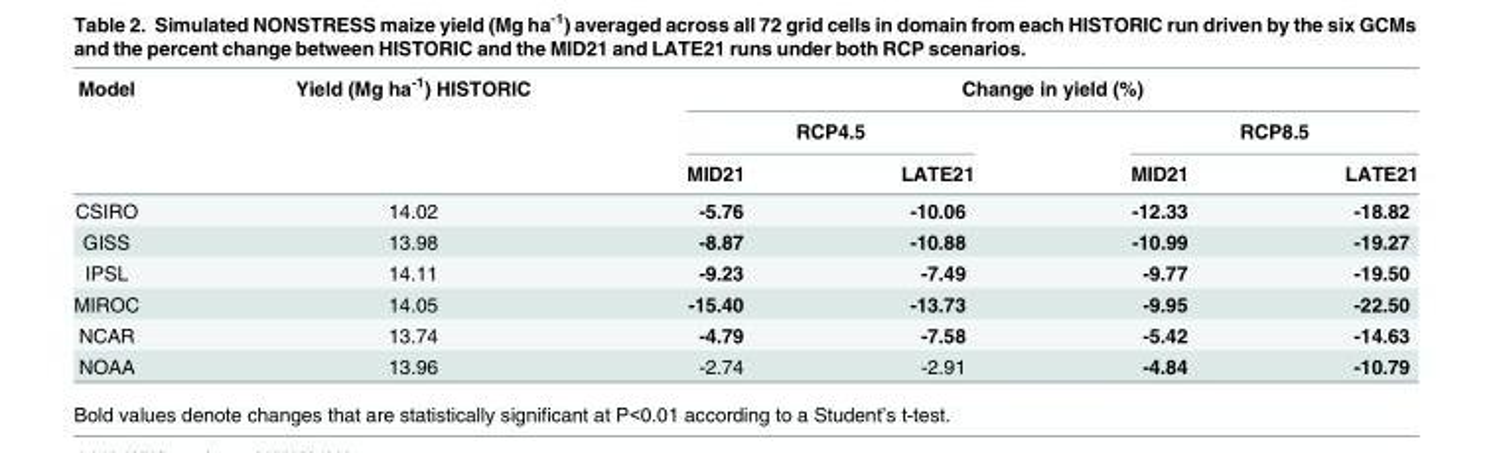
<table><thead><tr><td rowspan="3">Model</td><td rowspan="3">Yield (Mg ha<sup>-1</sup>) HISTORIC</td><td colspan="4">Change in yield (%)</td></tr><tr><td colspan="2">RCP4.5</td><td colspan="2">RCP8.5</td></tr><tr><td>MID21</td><td>LATE21</td><td>MID21</td><td>LATE21</td></tr></thead><tbody><tr><td>CSIRO</td><td>14.02</td><td>-5.76</td><td>-10.06</td><td>-12.33</td><td>-18.82</td></tr><tr><td>GISS</td><td>13.98</td><td>-8.87</td><td>-10.88</td><td>-10.99</td><td>-19.27</td></tr><tr><td>IPSL</td><td>14.11</td><td>-9.23</td><td>-7.49</td><td>-9.77</td><td>-19.50</td></tr><tr><td>MIROC</td><td>14.05</td><td>-15.40</td><td>-13.73</td><td>-9.95</td><td>-22.50</td></tr><tr><td>NCAR</td><td>13.74</td><td>-4.79</td><td>-7.58</td><td>-5.42</td><td>-14.63</td></tr><tr><td>NOAA</td><td>13.96</td><td>-2.74</td><td>-2.91</td><td>-4.84</td><td>-10.79</td></tr></tbody></table>